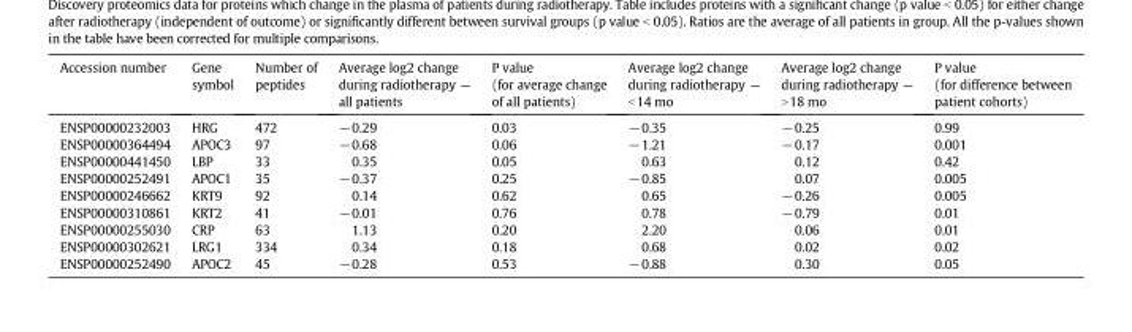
<table><thead><tr><td>Accession number</td><td>Gene symbol</td><td>Number of peptides</td><td>Average log2 change during radiotherapy — all patients</td><td>P value (for average change of all patients)</td><td>Average log2 change during radiotherapy — &lt;14 mo</td><td>Average log2 change during radiotherapy — &gt;18 mo</td><td>P value (for difference between patient cohorts)</td></tr></thead><tbody><tr><td>ENSP00000232003</td><td>HRG</td><td>472</td><td>−0.29</td><td>0.03</td><td>−0.35</td><td>−0.25</td><td>0.99</td></tr><tr><td>ENSP00000364494</td><td>APOC3</td><td>97</td><td>−0.68</td><td>0.06</td><td>−1.21</td><td>−0.17</td><td>0.001</td></tr><tr><td>ENSP00000441450</td><td>LBP</td><td>33</td><td>0.35</td><td>0.05</td><td>0.63</td><td>0.12</td><td>0.42</td></tr><tr><td>ENSP00000252491</td><td>APOC1</td><td>35</td><td>−0.37</td><td>0.25</td><td>−0.85</td><td>0.07</td><td>0.005</td></tr><tr><td>ENSP00000246662</td><td>KRT9</td><td>92</td><td>0.14</td><td>0.62</td><td>0.65</td><td>−0.26</td><td>0.005</td></tr><tr><td>ENSP00000310861</td><td>KRT2</td><td>41</td><td>−0.01</td><td>0.76</td><td>0.78</td><td>−0.79</td><td>0.01</td></tr><tr><td>ENSP00000255030</td><td>CRP</td><td>63</td><td>1.13</td><td>0.20</td><td>2.20</td><td>0.06</td><td>0.01</td></tr><tr><td>ENSP00000302621</td><td>LRG1</td><td>334</td><td>0.34</td><td>0.18</td><td>0.68</td><td>0.02</td><td>0.02</td></tr><tr><td>ENSP00000252490</td><td>APOC2</td><td>45</td><td>−0.28</td><td>0.53</td><td>−0.88</td><td>0.30</td><td>0.05</td></tr></tbody></table>